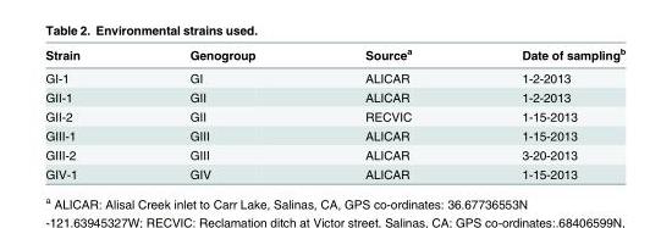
<table><thead><tr><td>Strain</td><td>Genogroup</td><td>Source<sup>a</sup></td><td>Date of sampling<sup>b</sup></td></tr></thead><tbody><tr><td>GI-1</td><td>GI</td><td>ALICAR</td><td>1-2-2013</td></tr><tr><td>GII-1</td><td>GII</td><td>ALICAR</td><td>1-2-2013</td></tr><tr><td>GII-2</td><td>GII</td><td>RECVIC</td><td>1-15-2013</td></tr><tr><td>GIII-1</td><td>GIII</td><td>ALICAR</td><td>1-15-2013</td></tr><tr><td>GIII-2</td><td>GIII</td><td>ALICAR</td><td>3-20-2013</td></tr><tr><td>GIV-1</td><td>GIV</td><td>ALICAR</td><td>1-15-2013</td></tr></tbody></table>